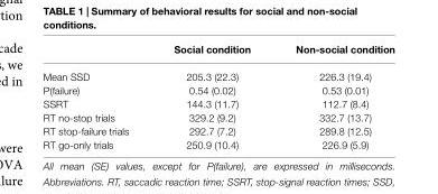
<table><thead><tr><td></td><td>Social condition</td><td>Non-social condition</td></tr></thead><tbody><tr><td>Mean SSD</td><td>205.3 (22.3)</td><td>226.3 (19.4)</td></tr><tr><td>P(failure)</td><td>0.54 (0.02)</td><td>0.53 (0.01)</td></tr><tr><td>SSRT</td><td>144.3 (11.7)</td><td>112.7 (8.4)</td></tr><tr><td>RT no-stop trials</td><td>329.2 (9.2)</td><td>332.7 (13.7)</td></tr><tr><td>RT stop-failure trials</td><td>292.7 (7.2)</td><td>289.8 (12.5)</td></tr><tr><td>RT go-only trials</td><td>250.9 (10.4)</td><td>226.9 (5.9)</td></tr></tbody></table>